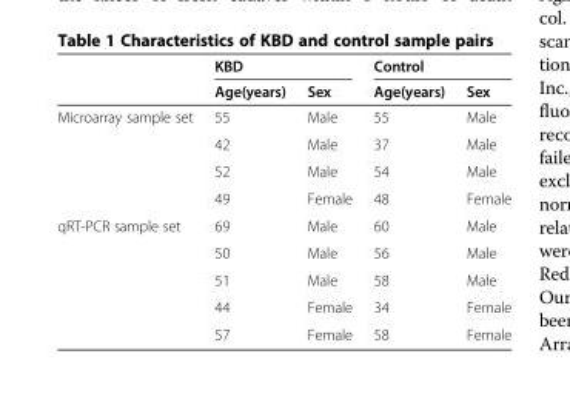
<table><thead><tr><td rowspan="2"></td><td colspan="2">KBD</td><td colspan="2">Control</td></tr><tr><td>Age(years)</td><td>Sex</td><td>Age(years)</td><td>Sex</td></tr></thead><tbody><tr><td rowspan="4">Microarray sample set</td><td>55</td><td>Male</td><td>55</td><td>Male</td></tr><tr><td>42</td><td>Male</td><td>37</td><td>Male</td></tr><tr><td>52</td><td>Male</td><td>54</td><td>Male</td></tr><tr><td>49</td><td>Female</td><td>48</td><td>Female</td></tr><tr><td rowspan="5">qRT-PCR sample set</td><td>69</td><td>Male</td><td>60</td><td>Male</td></tr><tr><td>50</td><td>Male</td><td>56</td><td>Male</td></tr><tr><td>51</td><td>Male</td><td>58</td><td>Male</td></tr><tr><td>44</td><td>Female</td><td>34</td><td>Female</td></tr><tr><td>57</td><td>Female</td><td>58</td><td>Female</td></tr></tbody></table>